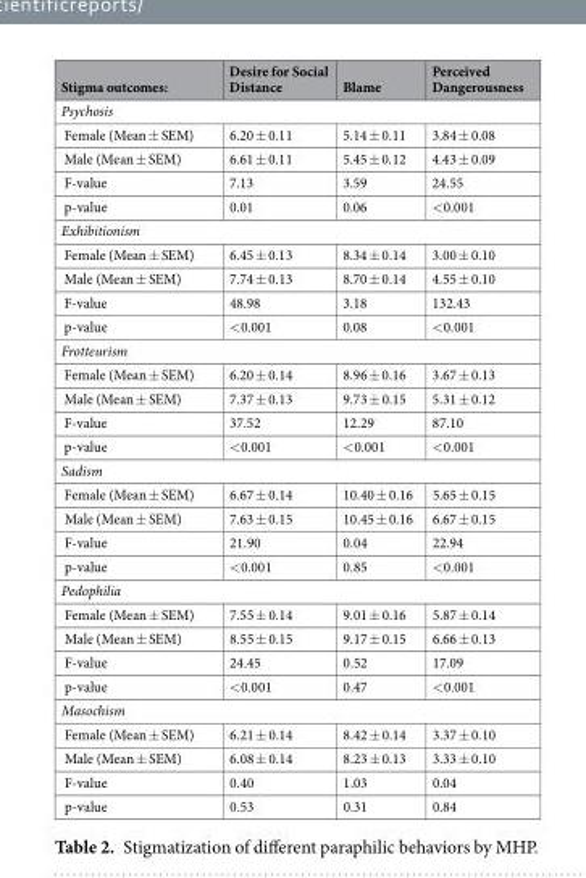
<table><thead><tr><td>Stigma outcomes:</td><td>Desire for Social Distance</td><td>Blame</td><td>Perceived Dangerousness</td></tr></thead><tbody><tr><td colspan="4">Psychosis</td></tr><tr><td>Female (Mean ± SEM)</td><td>6.20 ± 0.11</td><td>5.14 ± 0.11</td><td>3.84 ± 0.08</td></tr><tr><td>Male (Mean ± SEM)</td><td>6.61 ± 0.11</td><td>5.45 ± 0.12</td><td>4.43 ± 0.09</td></tr><tr><td>F-value</td><td>7.13</td><td>3.59</td><td>24.55</td></tr><tr><td>p-value</td><td>0.01</td><td>0.06</td><td>&lt;0.001</td></tr><tr><td colspan="4">Exhibitionism</td></tr><tr><td>Female (Mean ± SEM)</td><td>6.45 ± 0.13</td><td>8.34 ± 0.14</td><td>3.00 ± 0.10</td></tr><tr><td>Male (Mean ± SEM)</td><td>7.74 ± 0.13</td><td>8.70 ± 0.14</td><td>4.55 ± 0.10</td></tr><tr><td>F-value</td><td>48.98</td><td>3.18</td><td>132.43</td></tr><tr><td>p-value</td><td>&lt;0.001</td><td>0.08</td><td>&lt;0.001</td></tr><tr><td colspan="4">Frotteurism</td></tr><tr><td>Female (Mean ± SEM)</td><td>6.20 ± 0.14</td><td>8.96 ± 0.16</td><td>3.67 ± 0.13</td></tr><tr><td>Male (Mean ± SEM)</td><td>7.37 ± 0.13</td><td>9.73 ± 0.15</td><td>5.31 ± 0.12</td></tr><tr><td>F-value</td><td>37.52</td><td>12.29</td><td>87.10</td></tr><tr><td>p-value</td><td>&lt;0.001</td><td>&lt;0.001</td><td>&lt;0.001</td></tr><tr><td colspan="4">Sadism</td></tr><tr><td>Female (Mean ± SEM)</td><td>6.67 ± 0.14</td><td>10.40 ± 0.16</td><td>5.65 ± 0.15</td></tr><tr><td>Male (Mean ± SEM)</td><td>7.63 ± 0.15</td><td>10.45 ± 0.16</td><td>6.67 ± 0.15</td></tr><tr><td>F-value</td><td>21.90</td><td>0.04</td><td>22.94</td></tr><tr><td>p-value</td><td>&lt;0.001</td><td>0.85</td><td>&lt;0.001</td></tr><tr><td colspan="4">Pedophilia</td></tr><tr><td>Female (Mean ± SEM)</td><td>7.55 ± 0.14</td><td>9.01 ± 0.16</td><td>5.87 ± 0.14</td></tr><tr><td>Male (Mean ± SEM)</td><td>8.55 ± 0.15</td><td>9.17 ± 0.15</td><td>6.66 ± 0.13</td></tr><tr><td>F-value</td><td>24.45</td><td>0.52</td><td>17.09</td></tr><tr><td>p-value</td><td>&lt;0.001</td><td>0.47</td><td>&lt;0.001</td></tr><tr><td colspan="4">Masochism</td></tr><tr><td>Female (Mean ± SEM)</td><td>6.21 ± 0.14</td><td>8.42 ± 0.14</td><td>3.37 ± 0.10</td></tr><tr><td>Male (Mean ± SEM)</td><td>6.08 ± 0.14</td><td>8.23 ± 0.13</td><td>3.33 ± 0.10</td></tr><tr><td>F-value</td><td>0.40</td><td>1.03</td><td>0.04</td></tr><tr><td>p-value</td><td>0.53</td><td>0.31</td><td>0.84</td></tr></tbody></table>